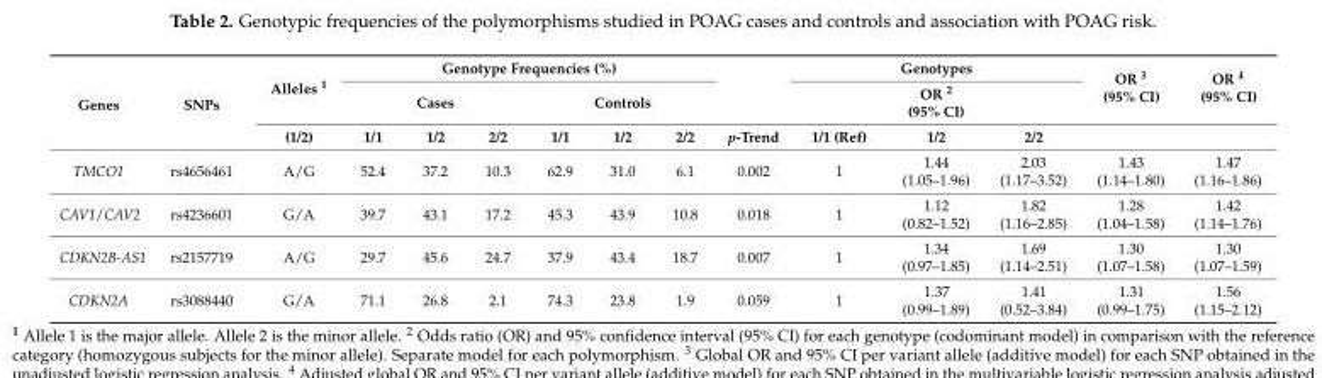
<table><thead><tr><td rowspan="3">Genes</td><td rowspan="3">SNPs</td><td rowspan="3">Alleles <sup>1</sup> (1/2)</td><td colspan="6">Genotype Frequencies (%)</td><td rowspan="3">p-Trend</td><td rowspan="2" colspan="3">Genotypes OR <sup>2</sup> (95% CI)</td><td rowspan="3">OR <sup>3</sup> (95% CI)</td><td rowspan="3">OR <sup>4</sup> (95% CI)</td></tr><tr><td colspan="3">Cases</td><td colspan="3">Controls</td></tr><tr><td>1/1</td><td>1/2</td><td>2/2</td><td>1/1</td><td>1/2</td><td>2/2</td><td>1/1 (Ref)</td><td>1/2</td><td>2/2</td></tr></thead><tbody><tr><td>TMCO1</td><td>rs4656461</td><td>A/G</td><td>52.4</td><td>37.2</td><td>10.3</td><td>62.9</td><td>31.0</td><td>6.1</td><td>0.002</td><td>1</td><td>1.44 (1.05–1.96)</td><td>2.03 (1.17–3.52)</td><td>1.43 (1.14–1.80)</td><td>1.47 (1.16–1.86)</td></tr><tr><td>CAV1/CAV2</td><td>rs4236601</td><td>G/A</td><td>39.7</td><td>43.1</td><td>17.2</td><td>45.3</td><td>43.9</td><td>10.8</td><td>0.018</td><td>1</td><td>1.12 (0.82–1.52)</td><td>1.82 (1.16–2.85)</td><td>1.28 (1.04–1.58)</td><td>1.42 (1.14–1.76)</td></tr><tr><td>CDKN2B-AS1</td><td>rs2157719</td><td>A/G</td><td>29.7</td><td>45.6</td><td>24.7</td><td>37.9</td><td>43.4</td><td>18.7</td><td>0.007</td><td>1</td><td>1.34 (0.97–1.85)</td><td>1.69 (1.14–2.51)</td><td>1.30 (1.07–1.58)</td><td>1.30 (1.07–1.59)</td></tr><tr><td>CDKN2A</td><td>rs3088440</td><td>G/A</td><td>71.1</td><td>26.8</td><td>2.1</td><td>74.3</td><td>23.8</td><td>1.9</td><td>0.059</td><td>1</td><td>1.37 (0.99–1.89)</td><td>1.41 (0.52–3.84)</td><td>1.31 (0.99–1.75)</td><td>1.56 (1.15–2.12)</td></tr></tbody></table>